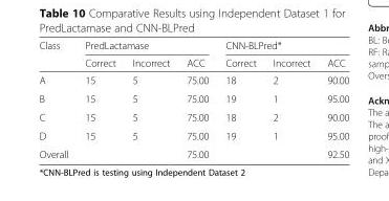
<table><thead><tr><td rowspan="2">Class</td><td colspan="3">PredLactamase</td><td colspan="3">CNN-BLPred*</td></tr><tr><td>Correct</td><td>Incorrect</td><td>ACC</td><td>Correct</td><td>Incorrect</td><td>ACC</td></tr></thead><tbody><tr><td>A</td><td>15</td><td>5</td><td>75.00</td><td>18</td><td>2</td><td>90.00</td></tr><tr><td>B</td><td>15</td><td>5</td><td>75.00</td><td>19</td><td>1</td><td>95.00</td></tr><tr><td>C</td><td>15</td><td>5</td><td>75.00</td><td>18</td><td>2</td><td>90.00</td></tr><tr><td>D</td><td>15</td><td>5</td><td>75.00</td><td>19</td><td>1</td><td>95.00</td></tr><tr><td>Overall</td><td></td><td></td><td>75.00</td><td></td><td></td><td>92.50</td></tr></tbody></table>